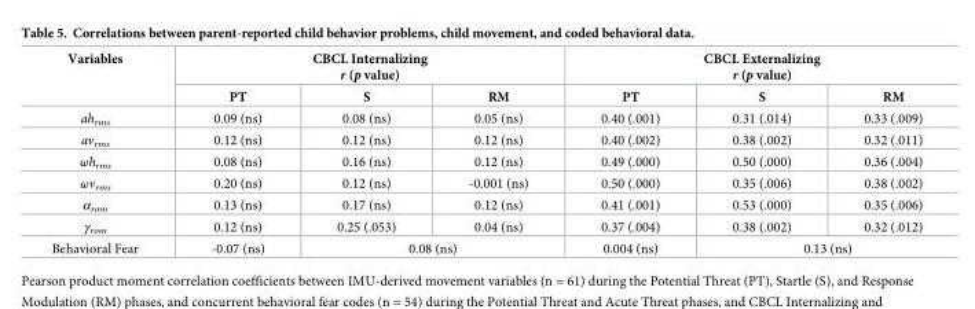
<table><thead><tr><td rowspan="2">Variables</td><td colspan="3">CBCL Internalizing r (p value)</td><td colspan="3">CBCL Externalizing r (p value)</td></tr><tr><td>PT</td><td>S</td><td>RM</td><td>PT</td><td>S</td><td>RM</td></tr></thead><tbody><tr><td>ah<sub>rms</sub></td><td>0.09 (ns)</td><td>0.08 (ns)</td><td>0.05 (ns)</td><td>0.40 (.001)</td><td>0.31 (.014)</td><td>0.33 (.009)</td></tr><tr><td>av<sub>rms</sub></td><td>0.12 (ns)</td><td>0.12 (ns)</td><td>0.12 (ns)</td><td>0.40 (.002)</td><td>0.38 (.002)</td><td>0.32 (.011)</td></tr><tr><td>ωh<sub>rms</sub></td><td>0.08 (ns)</td><td>0.16 (ns)</td><td>0.12 (ns)</td><td>0.49 (.000)</td><td>0.50 (.000)</td><td>0.36 (.004)</td></tr><tr><td>ωv<sub>rms</sub></td><td>0.20 (ns)</td><td>0.12 (ns)</td><td>-0.001 (ns)</td><td>0.50 (.000)</td><td>0.35 (.006)</td><td>0.38 (.002)</td></tr><tr><td>α<sub>rom</sub></td><td>0.13 (ns)</td><td>0.17 (ns)</td><td>0.12 (ns)</td><td>0.41 (.001)</td><td>0.53 (.000)</td><td>0.35 (.006)</td></tr><tr><td>γ<sub>rom</sub></td><td>0.12 (ns)</td><td>0.25 (.053)</td><td>0.04 (ns)</td><td>0.37 (.004)</td><td>0.38 (.002)</td><td>0.32 (.012)</td></tr><tr><td>Behavioral Fear</td><td>-0.07 (ns)</td><td colspan="2">0.08 (ns)</td><td>0.004 (ns)</td><td colspan="2">0.13 (ns)</td></tr></tbody></table>